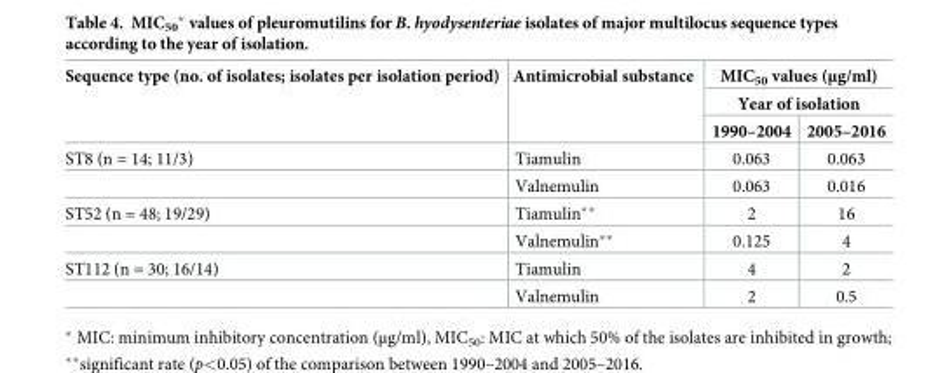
<table><thead><tr><td rowspan="3">Sequence type (no. of isolates; isolates per isolation period)</td><td rowspan="3">Antimicrobial substance</td><td rowspan="2" colspan="2">MIC<sub>50</sub> values (μg/ml) Year of isolation</td></tr><tr></tr><tr><td>1990–2004</td><td>2005–2016</td></tr></thead><tbody><tr><td rowspan="2">ST8 (n = 14; 11/3)</td><td>Tiamulin</td><td>0.063</td><td>0.063</td></tr><tr><td>Valnemulin</td><td>0.063</td><td>0.016</td></tr><tr><td rowspan="2">ST52 (n = 48; 19/29)</td><td>Tiamulin**</td><td>2</td><td>16</td></tr><tr><td>Valnemulin**</td><td>0.125</td><td>4</td></tr><tr><td rowspan="2">ST112 (n = 30; 16/14)</td><td>Tiamulin</td><td>4</td><td>2</td></tr><tr><td>Valnemulin</td><td>2</td><td>0.5</td></tr></tbody></table>